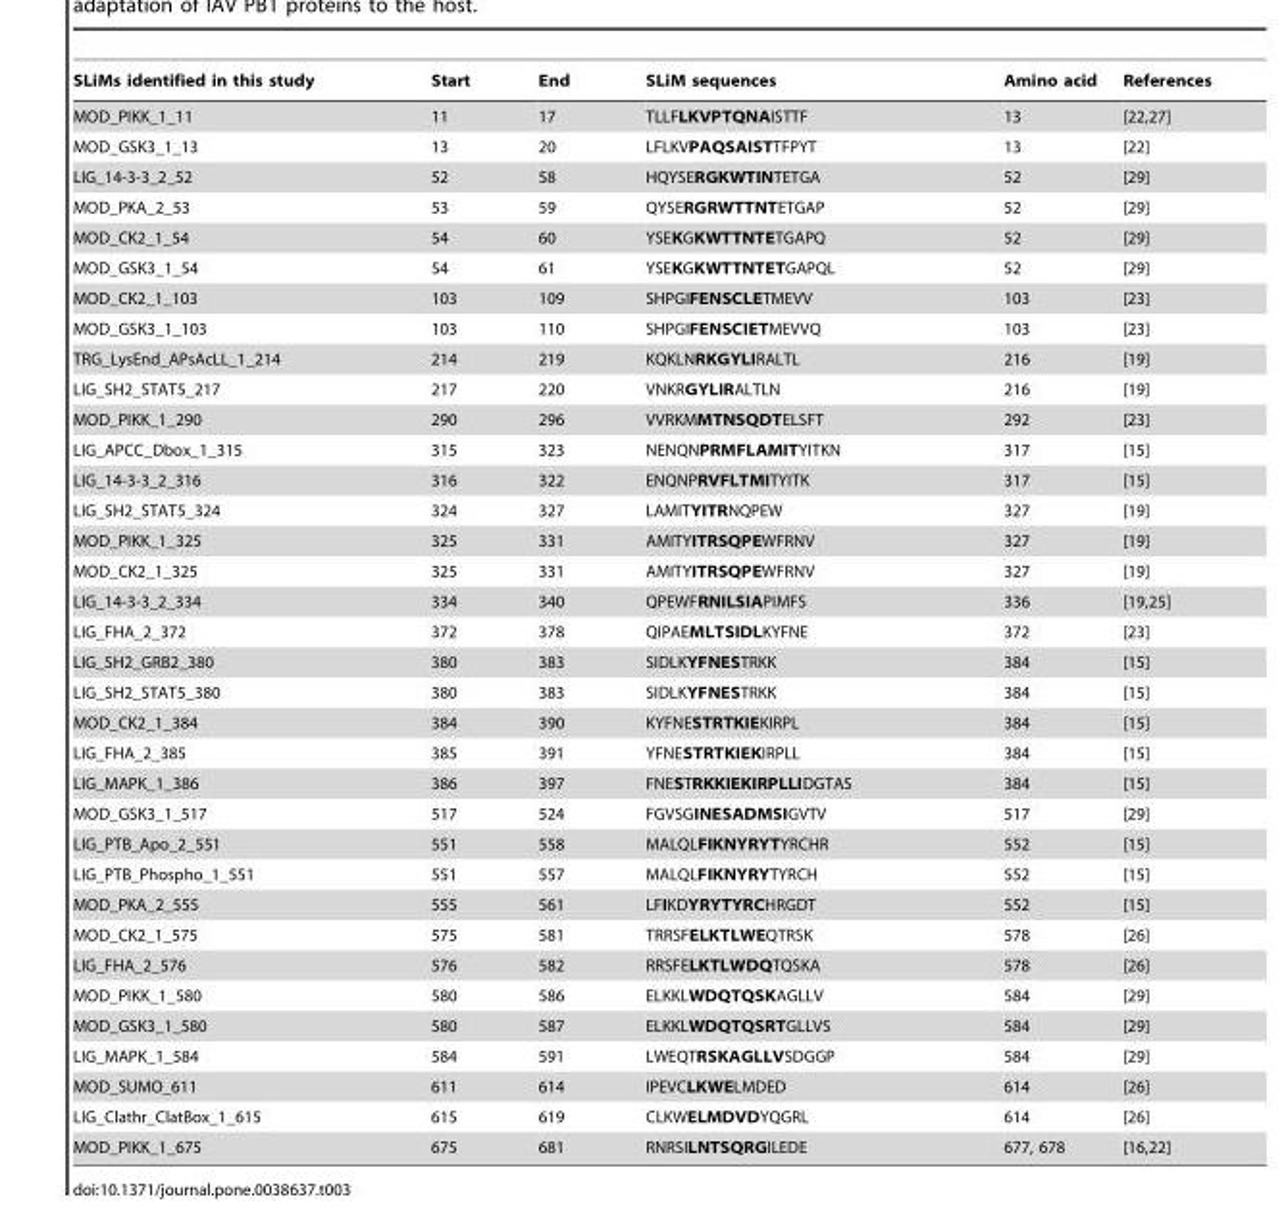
<table><thead><tr><td>SLiMs identified in this study</td><td>Start</td><td>End</td><td>SLiM sequences</td><td>Amino acid</td><td>References</td></tr></thead><tbody><tr><td>MOD_PIKK_1_11</td><td>11</td><td>17</td><td>TLLFLKVPTQNAISTTF</td><td>13</td><td>[22,27]</td></tr><tr><td>MOD_GSK3_1_13</td><td>13</td><td>20</td><td>LFLKVPAQSAISTTFPYT</td><td>13</td><td>[22]</td></tr><tr><td>LIG_14-3-3_2_52</td><td>52</td><td>58</td><td>HQYSERGKWTINTETGA</td><td>52</td><td>[29]</td></tr><tr><td>MOD_PKA_2_53</td><td>53</td><td>59</td><td>QYSERGRWTTNTETGAP</td><td>52</td><td>[29]</td></tr><tr><td>MOD_CK2_1_54</td><td>54</td><td>60</td><td>YSEKGKWTTNTETGAPQ</td><td>52</td><td>[29]</td></tr><tr><td>MOD_GSK3_1_54</td><td>54</td><td>61</td><td>YSEKGKWTTNTETGAPQL</td><td>52</td><td>[29]</td></tr><tr><td>MOD_CK2_1_103</td><td>103</td><td>109</td><td>SHPGIFENSCLETMEVV</td><td>103</td><td>[23]</td></tr><tr><td>MOD_GSK3_1_103</td><td>103</td><td>110</td><td>SHPGIFENSCIETMEVVQ</td><td>103</td><td>[23]</td></tr><tr><td>TRG_LysEnd_APsAcLL_1_214</td><td>214</td><td>219</td><td>KQKLNRKGYLIRALTL</td><td>216</td><td>[19]</td></tr><tr><td>LIG_SH2_STAT5_217</td><td>217</td><td>220</td><td>VNKRGYLIRALTLN</td><td>216</td><td>[19]</td></tr><tr><td>MOD_PIKK_1_290</td><td>290</td><td>296</td><td>VVRKMMTNSQDTELSFT</td><td>292</td><td>[23]</td></tr><tr><td>LIG_APCC_Dbox_1_315</td><td>315</td><td>323</td><td>NENQNPRMFLAMITYITKN</td><td>317</td><td>[15]</td></tr><tr><td>LIG_14-3-3_2_316</td><td>316</td><td>322</td><td>ENQNPRVFLTMITYITK</td><td>317</td><td>[15]</td></tr><tr><td>LIG_SH2_STAT5_324</td><td>324</td><td>327</td><td>LAMITYITRNQPEW</td><td>327</td><td>[19]</td></tr><tr><td>MOD_PIKK_1_325</td><td>325</td><td>331</td><td>AMITYITRSQPEWFRNV</td><td>327</td><td>[19]</td></tr><tr><td>MOD_CK2_1_325</td><td>325</td><td>331</td><td>AMITYITRSQPEWFRNV</td><td>327</td><td>[19]</td></tr><tr><td>LIG_14-3-3_2_334</td><td>334</td><td>340</td><td>QPEWFRNILSIAPIMFS</td><td>336</td><td>[19,25]</td></tr><tr><td>LIG_FHA_2_372</td><td>372</td><td>378</td><td>QIPAEMLTSIDLKYFNE</td><td>372</td><td>[23]</td></tr><tr><td>LIG_SH2_GRB2_380</td><td>380</td><td>383</td><td>SIDLKYFNESTRKK</td><td>384</td><td>[15]</td></tr><tr><td>LIG_SH2_STAT5_380</td><td>380</td><td>383</td><td>SIDLKYFNESTRKK</td><td>384</td><td>[15]</td></tr><tr><td>MOD_CK2_1_384</td><td>384</td><td>390</td><td>KYFNESTRTKIEKIRPL</td><td>384</td><td>[15]</td></tr><tr><td>LIG_FHA_2_385</td><td>385</td><td>391</td><td>YFNESTRTKIEKIRPLL</td><td>384</td><td>[15]</td></tr><tr><td>LIG_MAPK_1_386</td><td>386</td><td>397</td><td>FNESTRKKIEKIRPLLIDGTAS</td><td>384</td><td>[15]</td></tr><tr><td>MOD_GSK3_1_517</td><td>517</td><td>524</td><td>FGVSGINESADMSIGVTV</td><td>517</td><td>[29]</td></tr><tr><td>LIG_PTB_Apo_2_551</td><td>551</td><td>558</td><td>MALQLFIKNYRYTYRCHR</td><td>552</td><td>[15]</td></tr><tr><td>LIG_PTB_Phospho_1_551</td><td>551</td><td>557</td><td>MALQLFIKNYRYTYRCH</td><td>552</td><td>[15]</td></tr><tr><td>MOD_PKA_2_555</td><td>555</td><td>561</td><td>LFIKDYRYTYRCHRGDT</td><td>552</td><td>[15]</td></tr><tr><td>MOD_CK2_1_575</td><td>575</td><td>581</td><td>TRRSFELKTLWEQTRSK</td><td>578</td><td>[26]</td></tr><tr><td>LIG_FHA_2_576</td><td>576</td><td>582</td><td>RRSFELKTLWDQTQSKA</td><td>578</td><td>[26]</td></tr><tr><td>MOD_PIKK_1_580</td><td>580</td><td>586</td><td>ELKKLWDQTQSKAGLLV</td><td>584</td><td>[29]</td></tr><tr><td>MOD_GSK3_1_580</td><td>580</td><td>587</td><td>ELKKLWDQTQSRTGLLVS</td><td>584</td><td>[29]</td></tr><tr><td>LIG_MAPK_1_584</td><td>584</td><td>591</td><td>LWEQTRSKAGLLVSDGGP</td><td>584</td><td>[29]</td></tr><tr><td>MOD_SUMO_611</td><td>611</td><td>614</td><td>IPEVCLKWELMDED</td><td>614</td><td>[26]</td></tr><tr><td>LIG_Clathr_ClatBox_1_615</td><td>615</td><td>619</td><td>CLKWELMDVDYQGRL</td><td>614</td><td>[26]</td></tr><tr><td>MOD_PIKK_1_675</td><td>675</td><td>681</td><td>RNRSILNTSQRGILEDE</td><td>677, 678</td><td>[16,22]</td></tr></tbody></table>